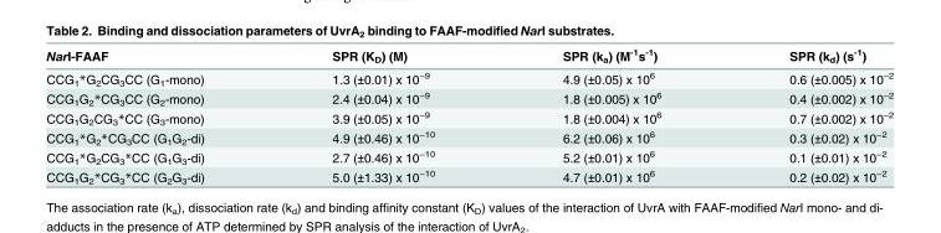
<table><thead><tr><td>NarI-FAAF</td><td>SPR (K<sub>D</sub>) (M)</td><td>SPR (k<sub>a</sub>) (M<sup>-1</sup>s<sup>-1</sup>)</td><td>SPR (k<sub>d</sub>) (s<sup>-1</sup>)</td></tr></thead><tbody><tr><td>CCG<sub>1</sub>*G<sub>2</sub>CG<sub>3</sub>CC (G<sub>1</sub>-mono)</td><td>1.3 (±0.01) x 10<sup>−9</sup></td><td>4.9 (±0.05) x 10<sup>6</sup></td><td>0.6 (±0.005) x 10<sup>−2</sup></td></tr><tr><td>CCG<sub>1</sub>G<sub>2</sub>*CG<sub>3</sub>CC (G<sub>2</sub>-mono)</td><td>2.4 (±0.04) x 10<sup>−9</sup></td><td>1.8 (±0.005) x 10<sup>6</sup></td><td>0.4 (±0.002) x 10<sup>−2</sup></td></tr><tr><td>CCG<sub>1</sub>G<sub>2</sub>CG<sub>3</sub>*CC (G<sub>3</sub>-mono)</td><td>3.9 (±0.05) x 10<sup>−9</sup></td><td>1.8 (±0.004) x 10<sup>6</sup></td><td>0.7 (±0.002) x 10<sup>−2</sup></td></tr><tr><td>CCG<sub>1</sub>*G<sub>2</sub>*CG<sub>3</sub>CC (G<sub>1</sub>G<sub>2</sub>-di)</td><td>4.9 (±0.46) x 10<sup>−10</sup></td><td>6.2 (±0.06) x 10<sup>6</sup></td><td>0.3 (±0.02) x 10<sup>−2</sup></td></tr><tr><td>CCG<sub>1</sub>*G<sub>2</sub>CG<sub>3</sub>*CC (G<sub>1</sub>G<sub>3</sub>-di)</td><td>2.7 (±0.46) x 10<sup>−10</sup></td><td>5.2 (±0.01) x 10<sup>6</sup></td><td>0.1 (±0.01) x 10<sup>−2</sup></td></tr><tr><td>CCG<sub>1</sub>G<sub>2</sub>*CG<sub>3</sub>*CC (G<sub>2</sub>G<sub>3</sub>-di)</td><td>5.0 (±1.33) x 10<sup>−10</sup></td><td>4.7 (±0.01) x 10<sup>6</sup></td><td>0.2 (±0.02) x 10<sup>−2</sup></td></tr></tbody></table>